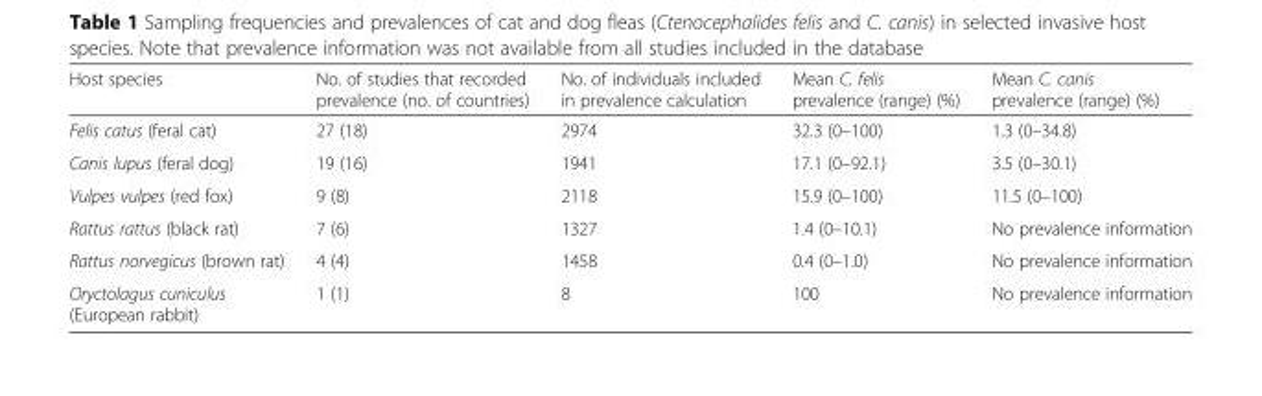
<table><thead><tr><td>Host species</td><td>No. of studies that recorded prevalence (no. of countries)</td><td>No. of individuals included in prevalence calculation</td><td>Mean C. felis prevalence (range) (%)</td><td>Mean C. canis prevalence (range) (%)</td></tr></thead><tbody><tr><td>Felis catus (feral cat)</td><td>27 (18)</td><td>2974</td><td>32.3 (0–100)</td><td>1.3 (0–34.8)</td></tr><tr><td>Canis lupus (feral dog)</td><td>19 (16)</td><td>1941</td><td>17.1 (0–92.1)</td><td>3.5 (0–30.1)</td></tr><tr><td>Vulpes vulpes (red fox)</td><td>9 (8)</td><td>2118</td><td>15.9 (0–100)</td><td>11.5 (0–100)</td></tr><tr><td>Rattus rattus (black rat)</td><td>7 (6)</td><td>1327</td><td>1.4 (0–10.1)</td><td>No prevalence information</td></tr><tr><td>Rattus norvegicus (brown rat)</td><td>4 (4)</td><td>1458</td><td>0.4 (0–1.0)</td><td>No prevalence information</td></tr><tr><td>Oryctolagus cuniculus (European rabbit)</td><td>1 (1)</td><td>8</td><td>100</td><td>No prevalence information</td></tr></tbody></table>